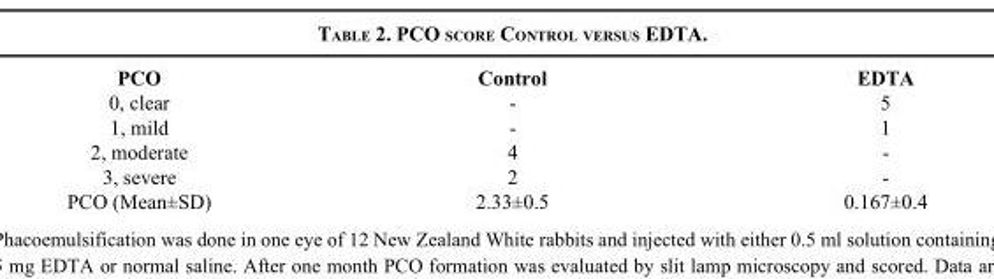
<table><thead><tr><td>PCO</td><td>Control</td><td>EDTA</td></tr></thead><tbody><tr><td>0, clear</td><td>-</td><td>5</td></tr><tr><td>1, mild</td><td>-</td><td>1</td></tr><tr><td>2, moderate</td><td>4</td><td>-</td></tr><tr><td>3, severe</td><td>2</td><td>-</td></tr><tr><td>PCO (Mean±SD)</td><td>2.33±0.5</td><td>0.167±0.4</td></tr></tbody></table>